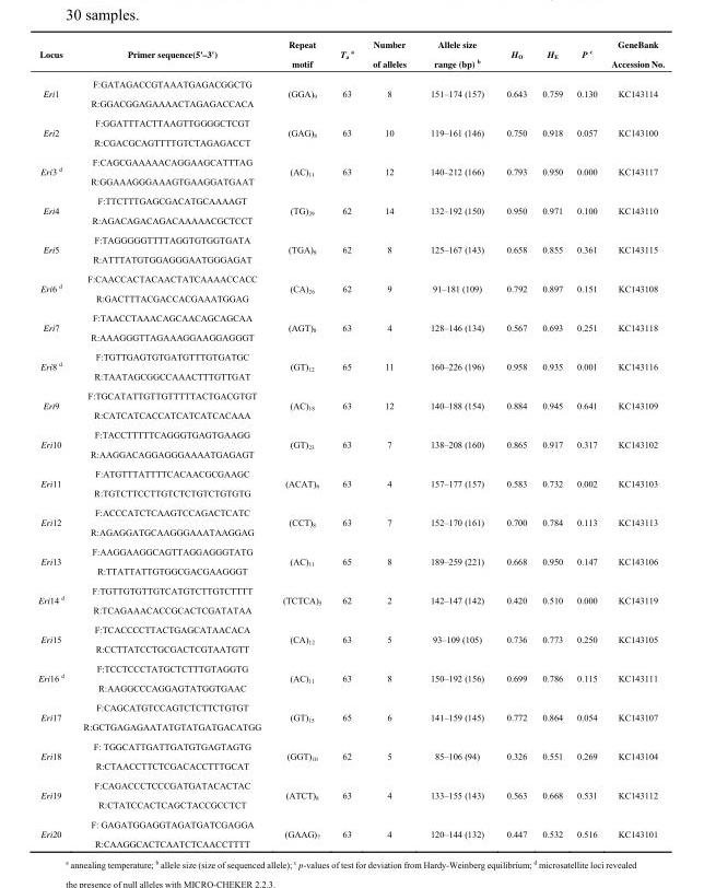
<table><thead><tr><td>Locus</td><td>Primer sequence(5&#x27;–3&#x27;)</td><td>Repeat motif</td><td>Ta a</td><td>Number of alleles</td><td>Allele size range (bp) b</td><td>H<sub>O</sub></td><td>H<sub>E</sub></td><td>P <sup>c</sup></td><td>GeneBank Accession No.</td></tr></thead><tbody><tr><td>Eri1</td><td>F:GATAGACCGTAAATGAGACGGCTG R:GGACGGAGAAAACTAGAGACCACA</td><td>(GGA)9</td><td>63</td><td>8</td><td>151–174 (157)</td><td>0.643</td><td>0.759</td><td>0.130</td><td>KC143114</td></tr><tr><td>Eri2</td><td>F:GGATTTACTTAAGTTGGGGCTCGT R:CGACGCAGTTTTGTCTAGAGACCT</td><td>(GAG)8</td><td>63</td><td>10</td><td>119–161 (146)</td><td>0.750</td><td>0.918</td><td>0.057</td><td>KC143100</td></tr><tr><td>Eri3 <sup>d</sup></td><td>F:CAGCGAAAAACAGGAAGCATTTAG R:GGAAAGGGAAAGTGAAGGATGAAT</td><td>(AC)11</td><td>63</td><td>12</td><td>140–212 (166)</td><td>0.793</td><td>0.950</td><td>0.000</td><td>KC143117</td></tr><tr><td>Eri4</td><td>F:TTCTTTGAGCGACATGCAAAAGT R:AGACAGACAGACAAAAACGCTCCT</td><td>(TG)29</td><td>62</td><td>14</td><td>132–192 (150)</td><td>0.950</td><td>0.971</td><td>0.100</td><td>KC143110</td></tr><tr><td>Eri5</td><td>F:TAGGGGGTTTTAGGTGTGGTGATA R:ATTTATGTGGAGGGAATGGGAGAT</td><td>(TGA)9</td><td>62</td><td>8</td><td>125–167 (143)</td><td>0.658</td><td>0.855</td><td>0.361</td><td>KC143115</td></tr><tr><td>Eri6 <sup>d</sup></td><td>F:CAACCACTACAACTATCAAAACCACC R:GACTTTACGACCACGAAATGGAG</td><td>(CA)26</td><td>62</td><td>9</td><td>91–181 (109)</td><td>0.792</td><td>0.897</td><td>0.151</td><td>KC143108</td></tr><tr><td>Eri7</td><td>F:TAACCTAAACAGCAACAGCAGCAA R:AAAGGGTTAGAAAGGAAGGAGGGT</td><td>(AGT)8</td><td>63</td><td>4</td><td>128–146 (134)</td><td>0.567</td><td>0.693</td><td>0.251</td><td>KC143118</td></tr><tr><td>Eri8 <sup>d</sup></td><td>F:TGTTGAGTGTGATGTTTGTGATGC R:TAATAGCGGCCAAACTTTGTTGAT</td><td>(GT)12</td><td>65</td><td>11</td><td>160–226 (196)</td><td>0.958</td><td>0.935</td><td>0.001</td><td>KC143116</td></tr><tr><td>Eri9</td><td>F:TGCATATTGTTGTTTTTACTGACGTGT R:CATCATCACCATCATCATCACAAA</td><td>(AC)18</td><td>63</td><td>12</td><td>140–188 (154)</td><td>0.884</td><td>0.945</td><td>0.641</td><td>KC143109</td></tr><tr><td>Eri10</td><td>F:TACCTTTTTCAGGGTGAGTGAAGG R:AAGGACAGGAGGGAAAATGAGAGT</td><td>(GT)23</td><td>63</td><td>7</td><td>138–208 (160)</td><td>0.865</td><td>0.917</td><td>0.317</td><td>KC143102</td></tr><tr><td>Eri11</td><td>F:ATGTTTATTTTCACAACGCGAAGC R:TGTCTTCCTTGTCTCTGTCTGTGTG</td><td>(ACAT)6</td><td>63</td><td>4</td><td>157–177 (157)</td><td>0.583</td><td>0.732</td><td>0.002</td><td>KC143103</td></tr><tr><td>Eri12</td><td>F:ACCCATCTCAAGTCCAGACTCATC R:AGAGGATGCAAGGGAAATAAGGAG</td><td>(CCT)8</td><td>63</td><td>7</td><td>152–170 (161)</td><td>0.700</td><td>0.784</td><td>0.113</td><td>KC143113</td></tr><tr><td>Eri13</td><td>F:AAGGAAGGCAGTTAGGAGGGTATG R:TTATTATTGTGGCGACGAAGGGT</td><td>(AC)11</td><td>65</td><td>8</td><td>189–259 (221)</td><td>0.668</td><td>0.950</td><td>0.147</td><td>KC143106</td></tr><tr><td>Eri14 <sup>d</sup></td><td>F:TGTTGTGTTGTCATGTCTTGTCTTTT R:TCAGAAACACCGCACTCGATATAA</td><td>(TCTCA)5</td><td>62</td><td>2</td><td>142–147 (142)</td><td>0.420</td><td>0.510</td><td>0.000</td><td>KC143119</td></tr><tr><td>Eri15</td><td>F:TCACCCCTTACTGAGCATAACACA R:CCTTATCCTGCGACTCGTAATGTT</td><td>(CA)12</td><td>63</td><td>5</td><td>93–109 (105)</td><td>0.736</td><td>0.773</td><td>0.250</td><td>KC143105</td></tr><tr><td>Eri16 <sup>d</sup></td><td>F:TCCTCCCTATGCTCTTTGTAGGTG R:AAGGCCCAGGAGTATGGTGAAC</td><td>(AC)11</td><td>63</td><td>8</td><td>150–192 (156)</td><td>0.699</td><td>0.786</td><td>0.115</td><td>KC143111</td></tr><tr><td>Eri17</td><td>F:CAGCATGTCCAGTCTCTTCTGTGT R:GCTGAGAGAATATGTATGATGACATGG</td><td>(GT)15</td><td>65</td><td>6</td><td>141–159 (145)</td><td>0.772</td><td>0.864</td><td>0.054</td><td>KC143107</td></tr><tr><td>Eri18</td><td>F: TGGCATTGATTGATGTGAGTAGTG R:CTAACCTTCTCGACACCTTTGCAT</td><td>(GGT)10</td><td>62</td><td>5</td><td>85–106 (94)</td><td>0.326</td><td>0.551</td><td>0.269</td><td>KC143104</td></tr><tr><td>Eri19</td><td>F:CAGACCCTCCCGATGATACACTAC R:CTATCCACTCAGCTACCGCCTCT</td><td>(ATCT)8</td><td>63</td><td>4</td><td>133–155 (143)</td><td>0.563</td><td>0.668</td><td>0.531</td><td>KC143112</td></tr><tr><td>Eri20</td><td>F: GAGATGGAGGTAGATGATCGAGGA R:CAAGGCACTCAATCTCAACCTTTT</td><td>(GAAG)7</td><td>63</td><td>4</td><td>120–144 (132)</td><td>0.447</td><td>0.532</td><td>0.516</td><td>KC143101</td></tr></tbody></table>